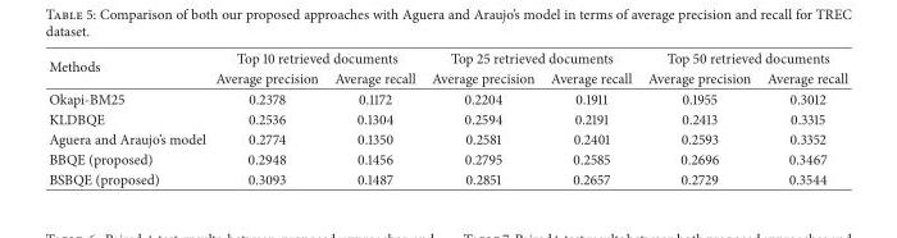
<table><thead><tr><td rowspan="2">Methods</td><td colspan="2">Top 10 retrieved documents</td><td colspan="2">Top 25 retrieved documents</td><td colspan="2">Top 50 retrieved documents</td></tr><tr><td>Average precision</td><td>Average recall</td><td>Average precision</td><td>Average recall</td><td>Average precision</td><td>Average recall</td></tr></thead><tbody><tr><td>Okapi-BM25</td><td>0.2378</td><td>0.1172</td><td>0.2204</td><td>0.1911</td><td>0.1955</td><td>0.3012</td></tr><tr><td>KLDBQE</td><td>0.2536</td><td>0.1304</td><td>0.2594</td><td>0.2191</td><td>0.2413</td><td>0.3315</td></tr><tr><td>Aguera and Araujo’s model</td><td>0.2774</td><td>0.1350</td><td>0.2581</td><td>0.2401</td><td>0.2593</td><td>0.3352</td></tr><tr><td>BBQE (proposed)</td><td>0.2948</td><td>0.1456</td><td>0.2795</td><td>0.2585</td><td>0.2696</td><td>0.3467</td></tr><tr><td>BSBQE (proposed)</td><td>0.3093</td><td>0.1487</td><td>0.2851</td><td>0.2657</td><td>0.2729</td><td>0.3544</td></tr></tbody></table>